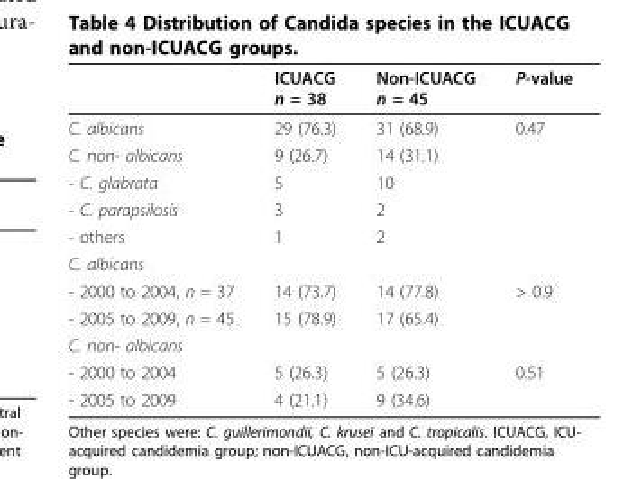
<table><thead><tr><td></td><td>ICUACG n = 38</td><td>Non-ICUACG n = 45</td><td>P-value</td></tr></thead><tbody><tr><td>C. albicans</td><td>29 (76.3)</td><td>31 (68.9)</td><td>0.47</td></tr><tr><td>C. non- albicans</td><td>9 (26.7)</td><td>14 (31.1)</td><td></td></tr><tr><td>- C. glabrata</td><td>5</td><td>10</td><td></td></tr><tr><td>- C. parapsilosis</td><td>3</td><td>2</td><td></td></tr><tr><td>- others</td><td>1</td><td>2</td><td></td></tr><tr><td colspan="4">C. albicans</td></tr><tr><td>- 2000 to 2004, n = 37</td><td>14 (73.7)</td><td>14 (77.8)</td><td>&gt; 0.9</td></tr><tr><td>- 2005 to 2009, n = 45</td><td>15 (78.9)</td><td>17 (65.4)</td><td></td></tr><tr><td colspan="4">C. non- albicans</td></tr><tr><td>- 2000 to 2004</td><td>5 (26.3)</td><td>5 (26.3)</td><td>0.51</td></tr><tr><td>- 2005 to 2009</td><td>4 (21.1)</td><td>9 (34.6)</td><td></td></tr></tbody></table>